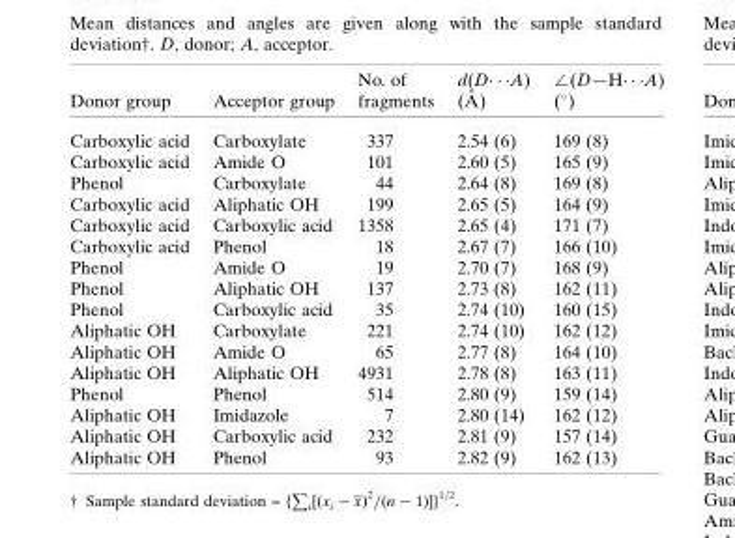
<table><thead><tr><td>Donor group</td><td>Acceptor group</td><td>No. of fragments</td><td>d(D� � �A) (A˚ )</td><td>/(D—H� � �A) (�)</td></tr></thead><tbody><tr><td>Carboxylic acid</td><td>Carboxylate</td><td>337</td><td>2.54 (6)</td><td>169 (8)</td></tr><tr><td>Carboxylic acid</td><td>Amide O</td><td>101</td><td>2.60 (5)</td><td>165 (9)</td></tr><tr><td>Phenol</td><td>Carboxylate</td><td>44</td><td>2.64 (8)</td><td>169 (8)</td></tr><tr><td>Carboxylic acid</td><td>Aliphatic OH</td><td>199</td><td>2.65 (5)</td><td>164 (9)</td></tr><tr><td>Carboxylic acid</td><td>Carboxylic acid</td><td>1358</td><td>2.65 (4)</td><td>171 (7)</td></tr><tr><td>Carboxylic acid</td><td>Phenol</td><td>18</td><td>2.67 (7)</td><td>166 (10)</td></tr><tr><td>Phenol</td><td>Amide O</td><td>19</td><td>2.70 (7)</td><td>168 (9)</td></tr><tr><td>Phenol</td><td>Aliphatic OH</td><td>137</td><td>2.73 (8)</td><td>162 (11)</td></tr><tr><td>Phenol</td><td>Carboxylic acid</td><td>35</td><td>2.74 (10)</td><td>160 (15)</td></tr><tr><td>Aliphatic OH</td><td>Carboxylate</td><td>221</td><td>2.74 (10)</td><td>162 (12)</td></tr><tr><td>Aliphatic OH</td><td>Amide O</td><td>65</td><td>2.77 (8)</td><td>164 (10)</td></tr><tr><td>Aliphatic OH</td><td>Aliphatic OH</td><td>4931</td><td>2.78 (8)</td><td>163 (11)</td></tr><tr><td>Phenol</td><td>Phenol</td><td>514</td><td>2.80 (9)</td><td>159 (14)</td></tr><tr><td>Aliphatic OH</td><td>Imidazole</td><td>7</td><td>2.80 (14)</td><td>162 (12)</td></tr><tr><td>Aliphatic OH</td><td>Carboxylic acid</td><td>232</td><td>2.81 (9)</td><td>157 (14)</td></tr><tr><td>Aliphatic OH</td><td>Phenol</td><td>93</td><td>2.82 (9)</td><td>162 (13)</td></tr></tbody></table>